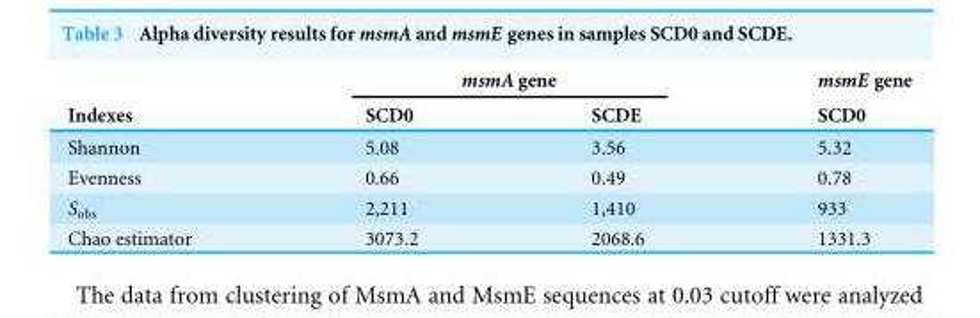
<table><thead><tr><td rowspan="2">Indexes</td><td colspan="2">msmA gene</td><td rowspan="2">msmE gene SCD0</td></tr><tr><td>SCD0</td><td>SCDE</td></tr></thead><tbody><tr><td>Shannon</td><td>5.08</td><td>3.56</td><td>5.32</td></tr><tr><td>Evenness</td><td>0.66</td><td>0.49</td><td>0.78</td></tr><tr><td>S<sub>obs</sub></td><td>2,211</td><td>1,410</td><td>933</td></tr><tr><td>Chao estimator</td><td>3073.2</td><td>2068.6</td><td>1331.3</td></tr></tbody></table>